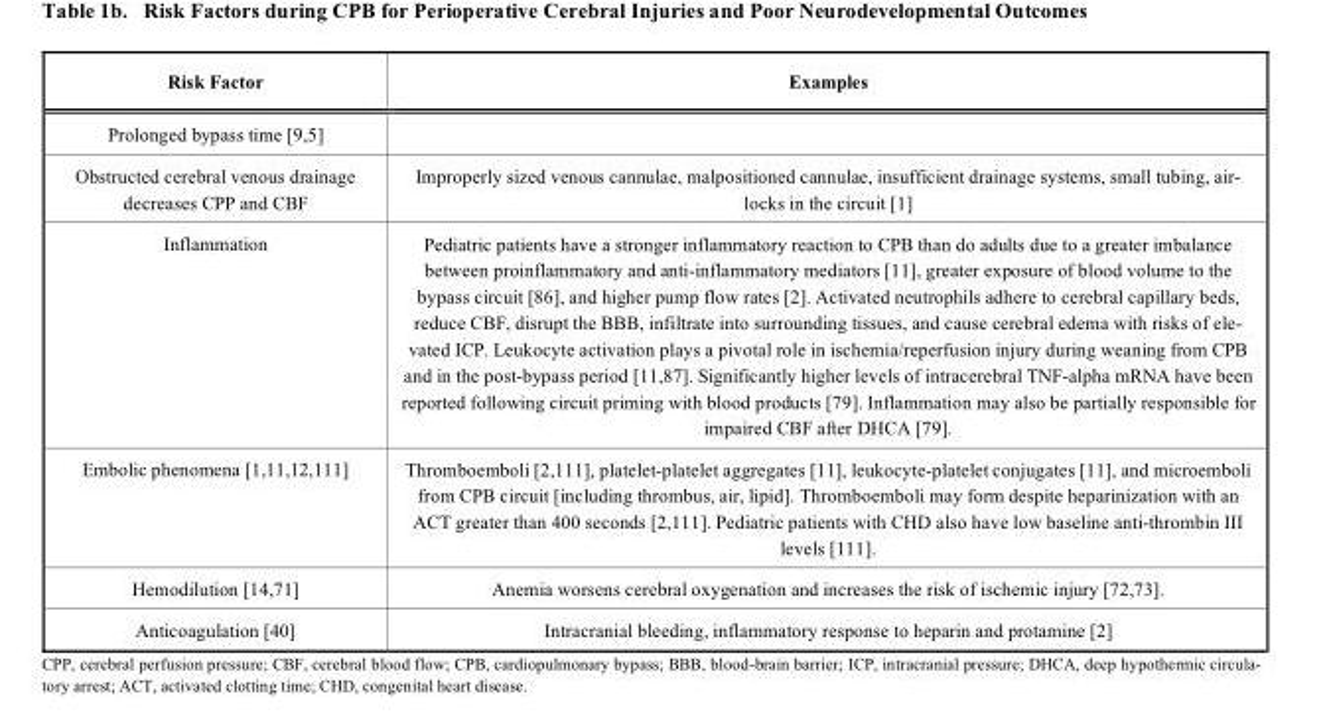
<table><thead><tr><td>Risk Factor</td><td>Examples</td></tr></thead><tbody><tr><td colspan="2">Prolonged bypass time [9,5]</td></tr><tr><td>Obstructed cerebral venous drainage decreases CPP and CBF</td><td>Improperly sized venous cannulae, malpositioned cannulae, insufficient drainage systems, small tubing, air- locks in the circuit [1]</td></tr><tr><td>Inflammation</td><td>Pediatric patients have a stronger inflammatory reaction to CPB than do adults due to a greater imbalance between proinflammatory and anti-inflammatory mediators [11], greater exposure of blood volume to the bypass circuit [86], and higher pump flow rates [2]. Activated neutrophils adhere to cerebral capillary beds, reduce CBF, disrupt the BBB, infiltrate into surrounding tissues, and cause cerebral edema with risks of ele- vated ICP. Leukocyte activation plays a pivotal role in ischemia/reperfusion injury during weaning from CPB and in the post-bypass period [11,87]. Significantly higher levels of intracerebral TNF-alpha mRNA have been reported following circuit priming with blood products [79]. Inflammation may also be partially responsible for impaired CBF after DHCA [79].</td></tr><tr><td>Embolic phenomena [1,11,12,111]</td><td>Thromboemboli [2,111], platelet-platelet aggregates [11], leukocyte-platelet conjugates [11], and microemboli from CPB circuit [including thrombus, air, lipid]. Thromboemboli may form despite heparinization with an ACT greater than 400 seconds [2,111]. Pediatric patients with CHD also have low baseline anti-thrombin III levels [111].</td></tr><tr><td>Hemodilution [14,71]</td><td>Anemia worsens cerebral oxygenation and increases the risk of ischemic injury [72,73].</td></tr><tr><td>Anticoagulation [40]</td><td>Intracranial bleeding, inflammatory response to heparin and protamine [2]</td></tr></tbody></table>